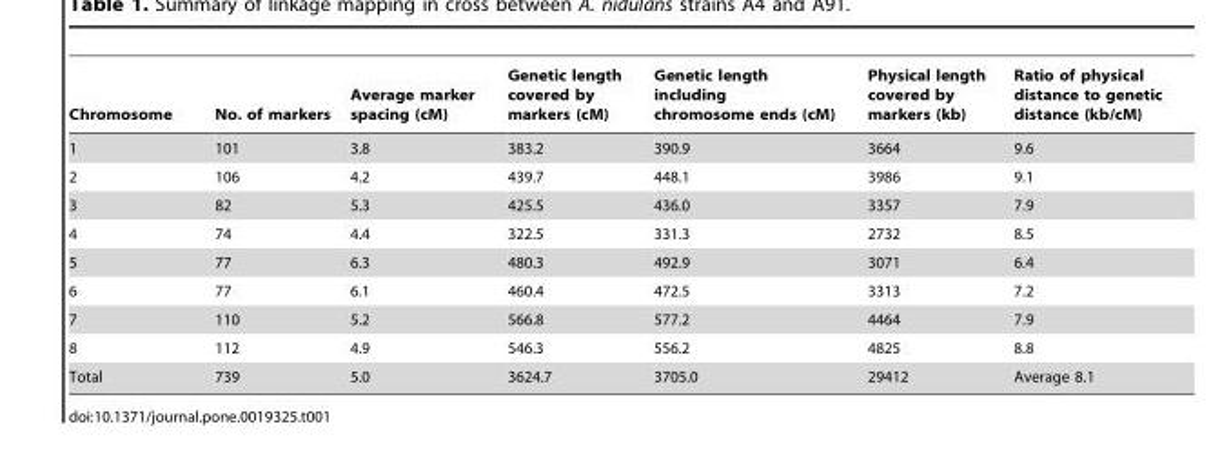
<table><thead><tr><td>Chromosome</td><td>No. of markers</td><td>Average marker spacing (cM)</td><td>Genetic length covered by markers (cM)</td><td>Genetic length including chromosome ends (cM)</td><td>Physical length covered by markers (kb)</td><td>Ratio of physical distance to genetic distance (kb/cM)</td></tr></thead><tbody><tr><td>1</td><td>101</td><td>3.8</td><td>383.2</td><td>390.9</td><td>3664</td><td>9.6</td></tr><tr><td>2</td><td>106</td><td>4.2</td><td>439.7</td><td>448.1</td><td>3986</td><td>9.1</td></tr><tr><td>3</td><td>82</td><td>5.3</td><td>425.5</td><td>436.0</td><td>3357</td><td>7.9</td></tr><tr><td>4</td><td>74</td><td>4.4</td><td>322.5</td><td>331.3</td><td>2732</td><td>8.5</td></tr><tr><td>5</td><td>77</td><td>6.3</td><td>480.3</td><td>492.9</td><td>3071</td><td>6.4</td></tr><tr><td>6</td><td>77</td><td>6.1</td><td>460.4</td><td>472.5</td><td>3313</td><td>7.2</td></tr><tr><td>7</td><td>110</td><td>5.2</td><td>566.8</td><td>577.2</td><td>4464</td><td>7.9</td></tr><tr><td>8</td><td>112</td><td>4.9</td><td>546.3</td><td>556.2</td><td>4825</td><td>8.8</td></tr><tr><td>Total</td><td>739</td><td>5.0</td><td>3624.7</td><td>3705.0</td><td>29412</td><td>Average 8.1</td></tr></tbody></table>